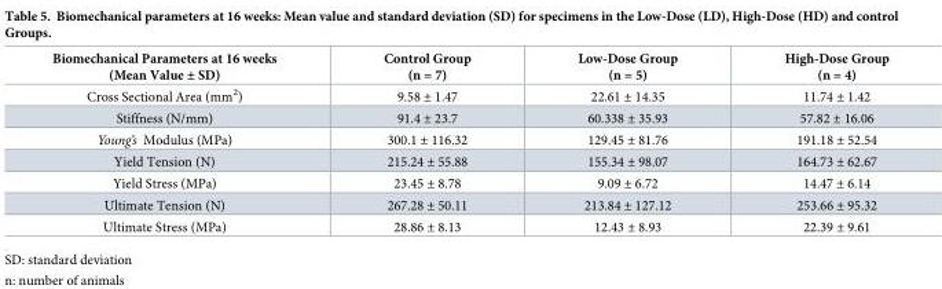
<table><thead><tr><td>Biomechanical Parameters at 16 weeks (Mean Value ± SD)</td><td>Control Group (n = 7)</td><td>Low-Dose Group (n = 5)</td><td>High-Dose Group (n = 4)</td></tr></thead><tbody><tr><td>Cross Sectional Area (mm<sup>2</sup>)</td><td>9.58 ± 1.47</td><td>22.61 ± 14.35</td><td>11.74 ± 1.42</td></tr><tr><td>Stiffness (N/mm)</td><td>91.4 ± 23.7</td><td>60.338 ± 35.93</td><td>57.82 ± 16.06</td></tr><tr><td>Young’s Modulus (MPa)</td><td>300.1 ± 116.32</td><td>129.45 ± 81.76</td><td>191.18 ± 52.54</td></tr><tr><td>Yield Tension (N)</td><td>215.24 ± 55.88</td><td>155.34 ± 98.07</td><td>164.73 ± 62.67</td></tr><tr><td>Yield Stress (MPa)</td><td>23.45 ± 8.78</td><td>9.09 ± 6.72</td><td>14.47 ± 6.14</td></tr><tr><td>Ultimate Tension (N)</td><td>267.28 ± 50.11</td><td>213.84 ± 127.12</td><td>253.66 ± 95.32</td></tr><tr><td>Ultimate Stress (MPa)</td><td>28.86 ± 8.13</td><td>12.43 ± 8.93</td><td>22.39 ± 9.61</td></tr></tbody></table>